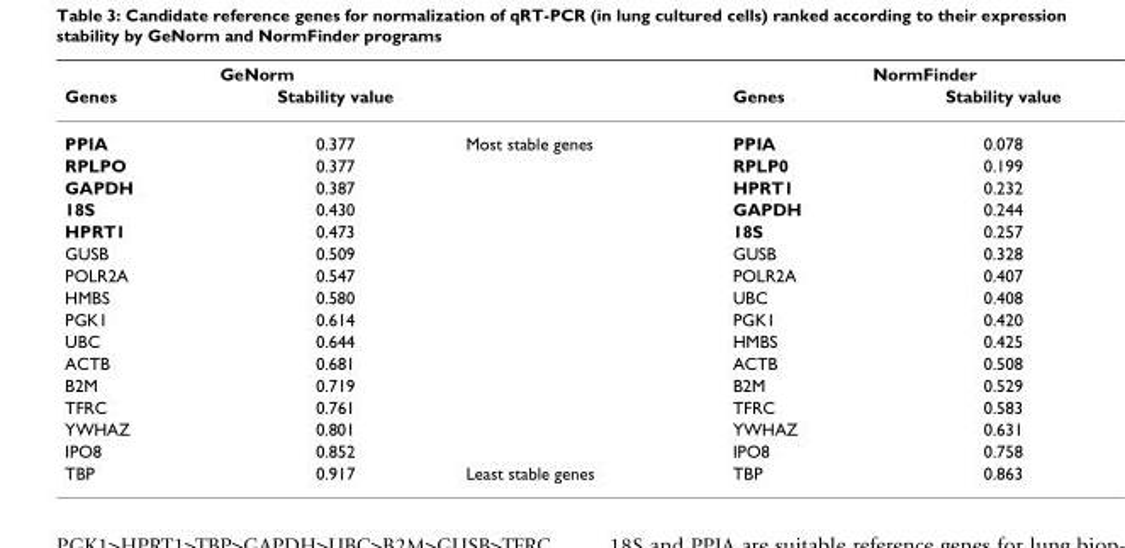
<table><thead><tr><td colspan="2">GeNorm</td><td rowspan="2"></td><td colspan="2">NormFinder</td></tr><tr><td>Genes</td><td>Stability value</td><td>Genes</td><td>Stability value</td></tr></thead><tbody><tr><td>PPIA</td><td>0.377</td><td>Most stable genes</td><td>PPIA</td><td>0.078</td></tr><tr><td>RPLPO</td><td>0.377</td><td></td><td>RPLP0</td><td>0.199</td></tr><tr><td>GAPDH</td><td>0.387</td><td></td><td>HPRT1</td><td>0.232</td></tr><tr><td>18S</td><td>0.430</td><td></td><td>GAPDH</td><td>0.244</td></tr><tr><td>HPRT1</td><td>0.473</td><td></td><td>18S</td><td>0.257</td></tr><tr><td>GUSB</td><td>0.509</td><td></td><td>GUSB</td><td>0.328</td></tr><tr><td>POLR2A</td><td>0.547</td><td></td><td>POLR2A</td><td>0.407</td></tr><tr><td>HMBS</td><td>0.580</td><td></td><td>UBC</td><td>0.408</td></tr><tr><td>PGK1</td><td>0.614</td><td></td><td>PGK1</td><td>0.420</td></tr><tr><td>UBC</td><td>0.644</td><td></td><td>HMBS</td><td>0.425</td></tr><tr><td>ACTB</td><td>0.681</td><td></td><td>ACTB</td><td>0.508</td></tr><tr><td>B2M</td><td>0.719</td><td></td><td>B2M</td><td>0.529</td></tr><tr><td>TFRC</td><td>0.761</td><td></td><td>TFRC</td><td>0.583</td></tr><tr><td>YWHAZ</td><td>0.801</td><td></td><td>YWHAZ</td><td>0.631</td></tr><tr><td>IPO8</td><td>0.852</td><td></td><td>IPO8</td><td>0.758</td></tr><tr><td>TBP</td><td>0.917</td><td>Least stable genes</td><td>TBP</td><td>0.863</td></tr></tbody></table>